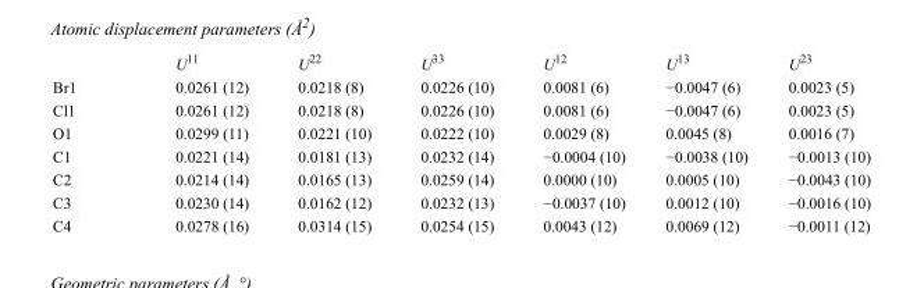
<table><thead><tr><td></td><td>U<sup>11</sup></td><td>U<sup>22</sup></td><td>U<sup>33</sup></td><td>U<sup>12</sup></td><td>U<sup>13</sup></td><td>U<sup>23</sup></td></tr></thead><tbody><tr><td>Br1</td><td>0.0261 (12)</td><td>0.0218 (8)</td><td>0.0226 (10)</td><td>0.0081 (6)</td><td>−0.0047 (6)</td><td>0.0023 (5)</td></tr><tr><td>Cl1</td><td>0.0261 (12)</td><td>0.0218 (8)</td><td>0.0226 (10)</td><td>0.0081 (6)</td><td>−0.0047 (6)</td><td>0.0023 (5)</td></tr><tr><td>O1</td><td>0.0299 (11)</td><td>0.0221 (10)</td><td>0.0222 (10)</td><td>0.0029 (8)</td><td>0.0045 (8)</td><td>0.0016 (7)</td></tr><tr><td>C1</td><td>0.0221 (14)</td><td>0.0181 (13)</td><td>0.0232 (14)</td><td>−0.0004 (10)</td><td>−0.0038 (10)</td><td>−0.0013 (10)</td></tr><tr><td>C2</td><td>0.0214 (14)</td><td>0.0165 (13)</td><td>0.0259 (14)</td><td>0.0000 (10)</td><td>0.0005 (10)</td><td>−0.0043 (10)</td></tr><tr><td>C3</td><td>0.0230 (14)</td><td>0.0162 (12)</td><td>0.0232 (13)</td><td>−0.0037 (10)</td><td>0.0012 (10)</td><td>−0.0016 (10)</td></tr><tr><td>C4</td><td>0.0278 (16)</td><td>0.0314 (15)</td><td>0.0254 (15)</td><td>0.0043 (12)</td><td>0.0069 (12)</td><td>−0.0011 (12)</td></tr></tbody></table>